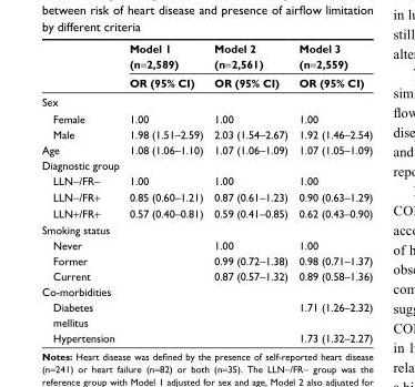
<table><thead><tr><td rowspan="2"></td><td rowspan="2">Model 1 (n=2,589) OR (95% CI)</td><td rowspan="2">Model 2 (n=2,561) OR (95% CI)</td><td rowspan="2">Model 3 (n=2,559) OR (95% CI)</td></tr><tr></tr></thead><tbody><tr><td colspan="4">sex</td></tr><tr><td>Female</td><td>1.00</td><td>1.00</td><td>1.00</td></tr><tr><td>Male</td><td>1.98 (1.51–2.59)</td><td>2.03 (1.54–2.67)</td><td>1.92 (1.46–2.54)</td></tr><tr><td>age</td><td>1.08 (1.06–1.10)</td><td>1.07 (1.06–1.09)</td><td>1.07 (1.05–1.09)</td></tr><tr><td colspan="4">Diagnostic group</td></tr><tr><td>lln−/Fr−</td><td>1.00</td><td>1.00</td><td>1.00</td></tr><tr><td>lln−/Fr+</td><td>0.85 (0.60–1.21)</td><td>0.87 (0.61–1.23)</td><td>0.90 (0.63–1.29)</td></tr><tr><td>lln+/Fr+</td><td>0.57 (0.40–0.81)</td><td>0.59 (0.41–0.85)</td><td>0.62 (0.43–0.90)</td></tr><tr><td colspan="4">smoking status</td></tr><tr><td>never</td><td></td><td>1.00</td><td>1.00</td></tr><tr><td>Former</td><td></td><td>0.99 (0.72–1.38)</td><td>0.98 (0.71–1.37)</td></tr><tr><td>Current</td><td></td><td>0.87 (0.57–1.32)</td><td>0.89 (0.58–1.36)</td></tr><tr><td colspan="4">Co-morbidities</td></tr><tr><td>Diabetes mellitus</td><td></td><td></td><td>1.71 (1.26–2.32)</td></tr><tr><td>hypertension</td><td></td><td></td><td>1.73 (1.32–2.27)</td></tr></tbody></table>